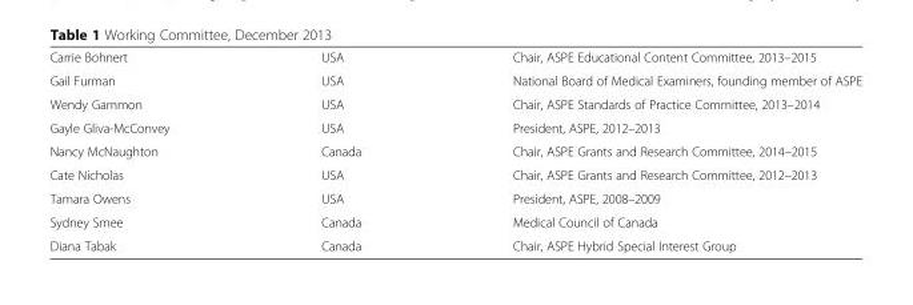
<table><tbody><tr><td>Carrie Bohnert</td><td>USA</td><td>Chair, ASPE Educational Content Committee, 2013–2015</td></tr><tr><td>Gail Furman</td><td>USA</td><td>National Board of Medical Examiners, founding member of ASPE</td></tr><tr><td>Wendy Gammon</td><td>USA</td><td>Chair, ASPE Standards of Practice Committee, 2013–2014</td></tr><tr><td>Gayle Gliva-McConvey</td><td>USA</td><td>President, ASPE, 2012–2013</td></tr><tr><td>Nancy McNaughton</td><td>Canada</td><td>Chair, ASPE Grants and Research Committee, 2014–2015</td></tr><tr><td>Cate Nicholas</td><td>USA</td><td>Chair, ASPE Grants and Research Committee, 2012–2013</td></tr><tr><td>Tamara Owens</td><td>USA</td><td>President, ASPE, 2008–2009</td></tr><tr><td>Sydney Smee</td><td>Canada</td><td>Medical Council of Canada</td></tr><tr><td>Diana Tabak</td><td>Canada</td><td>Chair, ASPE Hybrid Special Interest Group</td></tr></tbody></table>